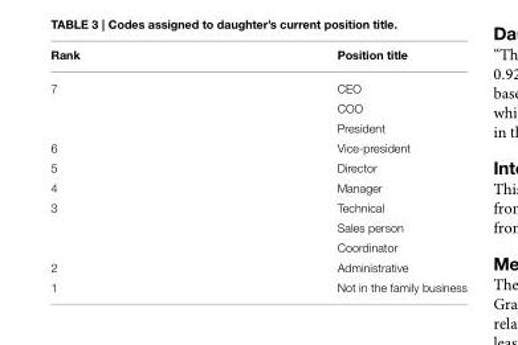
<table><thead><tr><td>Rank</td><td>Position title</td></tr></thead><tbody><tr><td rowspan="3">7</td><td>CEO</td></tr><tr><td>COO</td></tr><tr><td>President</td></tr><tr><td>6</td><td>Vice-president</td></tr><tr><td>5</td><td>Director</td></tr><tr><td>4</td><td>Manager</td></tr><tr><td rowspan="3">3</td><td>Technical</td></tr><tr><td>Sales person</td></tr><tr><td>Coordinator</td></tr><tr><td>2</td><td>Administrative</td></tr><tr><td>1</td><td>Not in the family business</td></tr></tbody></table>